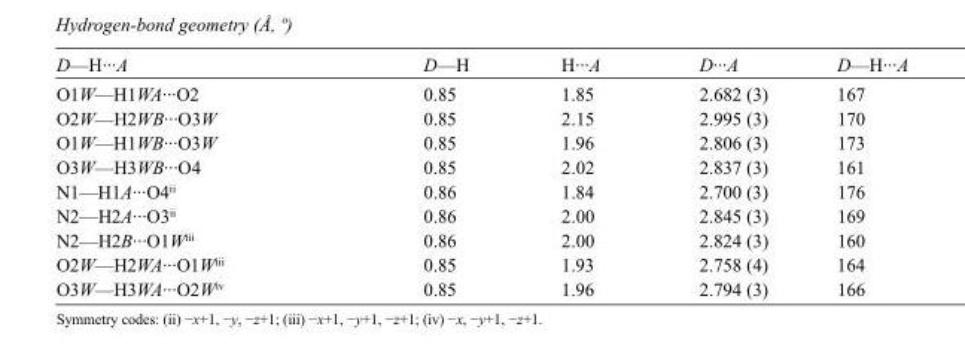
<table><tbody><tr><td>D—H···A</td><td>D—H</td><td>H···A</td><td>D···A</td><td>D—H···A</td></tr><tr><td>O1W—H1WA···O2</td><td>0.85</td><td>1.85</td><td>2.682 (3)</td><td>167</td></tr><tr><td>O2W—H2WB···O3W</td><td>0.85</td><td>2.15</td><td>2.995 (3)</td><td>170</td></tr><tr><td>O1W—H1WB···O3W</td><td>0.85</td><td>1.96</td><td>2.806 (3)</td><td>173</td></tr><tr><td>O3W—H3WB···O4</td><td>0.85</td><td>2.02</td><td>2.837 (3)</td><td>161</td></tr><tr><td>N1—H1A···O4<sup>ii</sup></td><td>0.86</td><td>1.84</td><td>2.700 (3)</td><td>176</td></tr><tr><td>N2—H2A···O3<sup>ii</sup></td><td>0.86</td><td>2.00</td><td>2.845 (3)</td><td>169</td></tr><tr><td>N2—H2B···O1W<sup>iii</sup></td><td>0.86</td><td>2.00</td><td>2.824 (3)</td><td>160</td></tr><tr><td>O2W—H2WA···O1W<sup>iii</sup></td><td>0.85</td><td>1.93</td><td>2.758 (4)</td><td>164</td></tr><tr><td>O3W—H3WA···O2W<sup>iv</sup></td><td>0.85</td><td>1.96</td><td>2.794 (3)</td><td>166</td></tr></tbody></table>